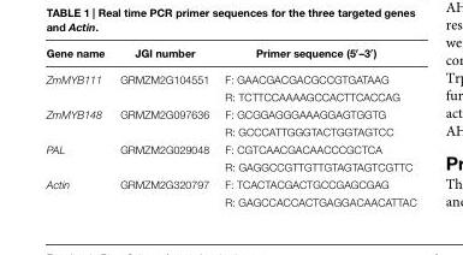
<table><thead><tr><td>Gene name</td><td>JGI number</td><td>Primer sequence (5′–3′)</td></tr></thead><tbody><tr><td rowspan="2">ZmMYB111</td><td>GRMZM2G104551</td><td>F: GAACGACGACGCCGTGATAAG</td></tr><tr><td></td><td>R: TCTTCCAAAAGCCACTTCACCAG</td></tr><tr><td rowspan="2">ZmMYB148</td><td>GRMZM2G097636</td><td>F: GCGGAGGGAAAGGAGTGGTG</td></tr><tr><td></td><td>R: GCCCATTGGGTACTGGTAGTCC</td></tr><tr><td rowspan="2">PAL</td><td>GRMZM2G029048</td><td>F: CGTCAACGACAACCCGCTCA</td></tr><tr><td></td><td>R: GAGGCCGTTGTTGTAGTAGTCGTTC</td></tr><tr><td rowspan="2">Actin</td><td>GRMZM2G320797</td><td>F: TCACTACGACTGCCGAGCGAG</td></tr><tr><td></td><td>R: GAGCCACCACTGAGGACAACATTAC</td></tr></tbody></table>